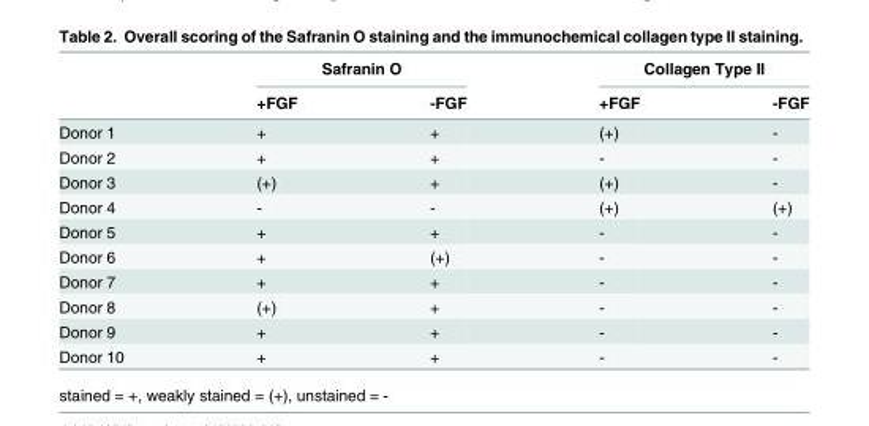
<table><thead><tr><td rowspan="2"></td><td colspan="2">Safranin O</td><td colspan="2">Collagen Type II</td></tr><tr><td>+FGF</td><td>-FGF</td><td>+FGF</td><td>-FGF</td></tr></thead><tbody><tr><td>Donor 1</td><td>+</td><td>+</td><td>(+)</td><td>-</td></tr><tr><td>Donor 2</td><td>+</td><td>+</td><td>-</td><td>-</td></tr><tr><td>Donor 3</td><td>(+)</td><td>+</td><td>(+)</td><td>-</td></tr><tr><td>Donor 4</td><td>-</td><td>-</td><td>(+)</td><td>(+)</td></tr><tr><td>Donor 5</td><td>+</td><td>+</td><td>-</td><td>-</td></tr><tr><td>Donor 6</td><td>+</td><td>(+)</td><td>-</td><td>-</td></tr><tr><td>Donor 7</td><td>+</td><td>+</td><td>-</td><td>-</td></tr><tr><td>Donor 8</td><td>(+)</td><td>+</td><td>-</td><td>-</td></tr><tr><td>Donor 9</td><td>+</td><td>+</td><td>-</td><td>-</td></tr><tr><td>Donor 10</td><td>+</td><td>+</td><td>-</td><td>-</td></tr></tbody></table>